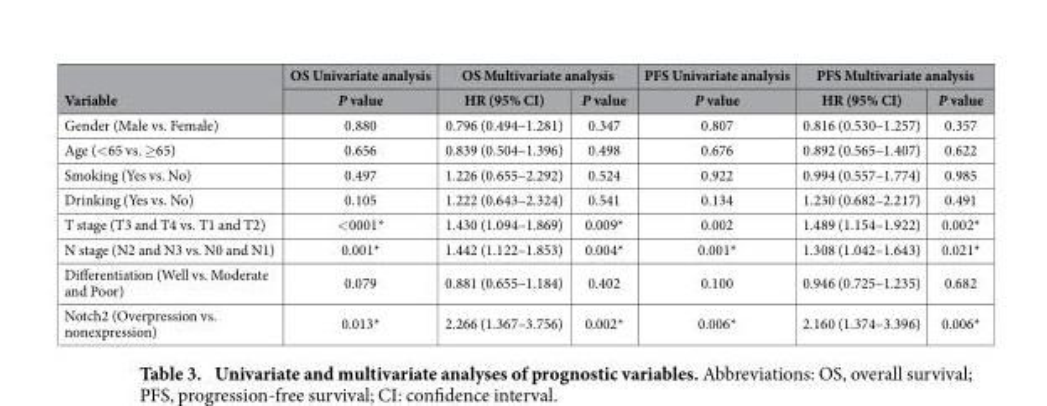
<table><thead><tr><td rowspan="2">Variable</td><td rowspan="2">OS Univariate analysis P value</td><td colspan="2">OS Multivariate analysis</td><td rowspan="2">PFS Univariate analysis P value</td><td colspan="2">PFS Multivariate analysis</td></tr><tr><td>HR (95% CI)</td><td>P value</td><td>HR (95% CI)</td><td>P value</td></tr></thead><tbody><tr><td>Gender (Male vs. Female)</td><td>0.880</td><td>0.796 (0.494–1.281)</td><td>0.347</td><td>0.807</td><td>0.816 (0.530–1.257)</td><td>0.357</td></tr><tr><td>Age (&lt; 65 vs. ≥ 65)</td><td>0.656</td><td>0.839 (0.504–1.396)</td><td>0.498</td><td>0.676</td><td>0.892 (0.565–1.407)</td><td>0.622</td></tr><tr><td>Smoking (Yes vs. No)</td><td>0.497</td><td>1.226 (0.655–2.292)</td><td>0.524</td><td>0.922</td><td>0.994 (0.557–1.774)</td><td>0.985</td></tr><tr><td>Drinking (Yes vs. No)</td><td>0.105</td><td>1.222 (0.643–2.324)</td><td>0.541</td><td>0.134</td><td>1.230 (0.682–2.217)</td><td>0.491</td></tr><tr><td>T stage (T3 and T4 vs. T1 and T2)</td><td>&lt; 0001*</td><td>1.430 (1.094–1.869)</td><td>0.009*</td><td>0.002</td><td>1.489 (1.154–1.922)</td><td>0.002*</td></tr><tr><td>N stage (N2 and N3 vs. N0 and N1)</td><td>0.001*</td><td>1.442 (1.122–1.853)</td><td>0.004*</td><td>0.001*</td><td>1.308 (1.042–1.643)</td><td>0.021*</td></tr><tr><td>Differentiation (Well vs. Moderate and Poor)</td><td>0.079</td><td>0.881 (0.655–1.184)</td><td>0.402</td><td>0.100</td><td>0.946 (0.725–1.235)</td><td>0.682</td></tr><tr><td>Notch2 (Overpression vs. nonexpression)</td><td>0.013*</td><td>2.266 (1.367–3.756)</td><td>0.002*</td><td>0.006*</td><td>2.160 (1.374–3.396)</td><td>0.006*</td></tr></tbody></table>